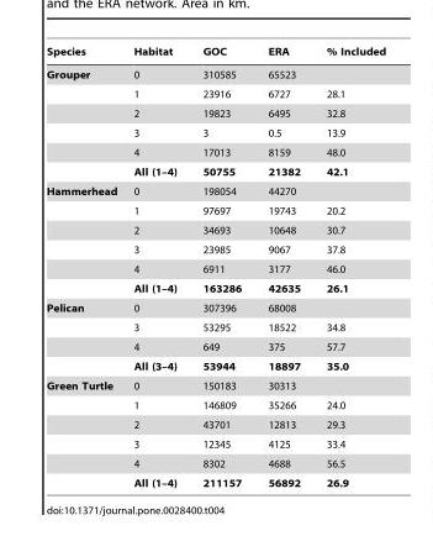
<table><thead><tr><td>Species</td><td>Habitat</td><td>GOC</td><td>ERA</td><td>% Included</td></tr></thead><tbody><tr><td rowspan="6">Grouper</td><td>0</td><td>310585</td><td>65523</td><td></td></tr><tr><td>1</td><td>23916</td><td>6727</td><td>28.1</td></tr><tr><td>2</td><td>19823</td><td>6495</td><td>32.8</td></tr><tr><td>3</td><td>3</td><td>0.5</td><td>13.9</td></tr><tr><td>4</td><td>17013</td><td>8159</td><td>48.0</td></tr><tr><td>All (1–4)</td><td>50755</td><td>21382</td><td>42.1</td></tr><tr><td rowspan="6">Hammerhead</td><td>0</td><td>198054</td><td>44270</td><td></td></tr><tr><td>1</td><td>97697</td><td>19743</td><td>20.2</td></tr><tr><td>2</td><td>34693</td><td>10648</td><td>30.7</td></tr><tr><td>3</td><td>23985</td><td>9067</td><td>37.8</td></tr><tr><td>4</td><td>6911</td><td>3177</td><td>46.0</td></tr><tr><td>All (1–4)</td><td>163286</td><td>42635</td><td>26.1</td></tr><tr><td rowspan="4">Pelican</td><td>0</td><td>307396</td><td>68008</td><td></td></tr><tr><td>3</td><td>53295</td><td>18522</td><td>34.8</td></tr><tr><td>4</td><td>649</td><td>375</td><td>57.7</td></tr><tr><td>All (3–4)</td><td>53944</td><td>18897</td><td>35.0</td></tr><tr><td rowspan="6">Green Turtle</td><td>0</td><td>150183</td><td>30313</td><td></td></tr><tr><td>1</td><td>146809</td><td>35266</td><td>24.0</td></tr><tr><td>2</td><td>43701</td><td>12813</td><td>29.3</td></tr><tr><td>3</td><td>12345</td><td>4125</td><td>33.4</td></tr><tr><td>4</td><td>8302</td><td>4688</td><td>56.5</td></tr><tr><td>All (1–4)</td><td>211157</td><td>56892</td><td>26.9</td></tr></tbody></table>